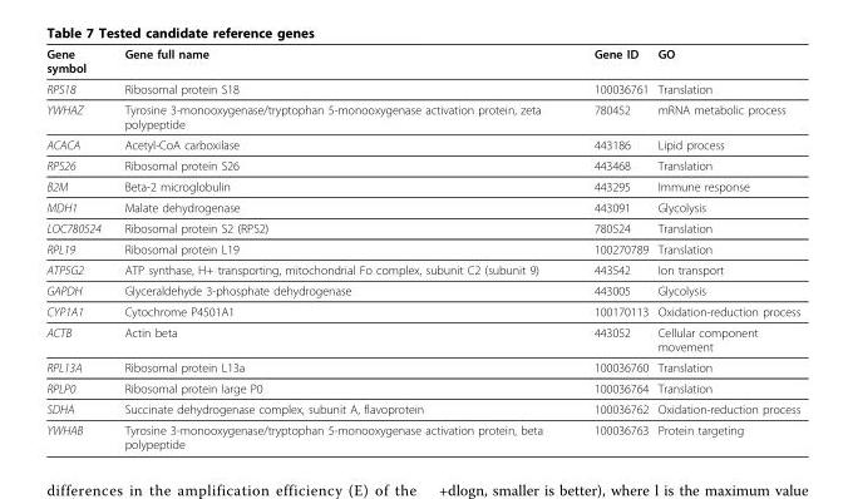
<table><thead><tr><td>Gene symbol</td><td>Gene full name</td><td>Gene ID</td><td>GO</td></tr></thead><tbody><tr><td>RPS18</td><td>Ribosomal protein S18</td><td>100036761</td><td>Translation</td></tr><tr><td>YWHAZ</td><td>Tyrosine 3-monooxygenase/tryptophan 5-monooxygenase activation protein, zeta polypeptide</td><td>780452</td><td>mRNA metabolic process</td></tr><tr><td>ACACA</td><td>Acetyl-CoA carboxilase</td><td>443186</td><td>Lipid process</td></tr><tr><td>RPS26</td><td>Ribosomal protein S26</td><td>443468</td><td>Translation</td></tr><tr><td>B2M</td><td>Beta-2 microglobulin</td><td>443295</td><td>Immune response</td></tr><tr><td>MDH1</td><td>Malate dehydrogenase</td><td>443091</td><td>Glycolysis</td></tr><tr><td>LOC780524</td><td>Ribosomal protein S2 (RPS2)</td><td>780524</td><td>Translation</td></tr><tr><td>RPL19</td><td>Ribosomal protein L19</td><td>100270789</td><td>Translation</td></tr><tr><td>ATP5G2</td><td>ATP synthase, H+ transporting, mitochondrial Fo complex, subunit C2 (subunit 9)</td><td>443542</td><td>Ion transport</td></tr><tr><td>GAPDH</td><td>Glyceraldehyde 3-phosphate dehydrogenase</td><td>443005</td><td>Glycolysis</td></tr><tr><td>CYP1A1</td><td>Cytochrome P4501A1</td><td>100170113</td><td>Oxidation-reduction process</td></tr><tr><td>ACTB</td><td>Actin beta</td><td>443052</td><td>Cellular component movement</td></tr><tr><td>RPL13A</td><td>Ribosomal protein L13a</td><td>100036760</td><td>Translation</td></tr><tr><td>RPLP0</td><td>Ribosomal protein large P0</td><td>100036764</td><td>Translation</td></tr><tr><td>SDHA</td><td>Succinate dehydrogenase complex, subunit A, flavoprotein</td><td>100036762</td><td>Oxidation-reduction process</td></tr><tr><td>YWHAB</td><td>Tyrosine 3-monooxygenase/tryptophan 5-monooxygenase activation protein, beta polypeptide</td><td>100036763</td><td>Protein targeting</td></tr></tbody></table>